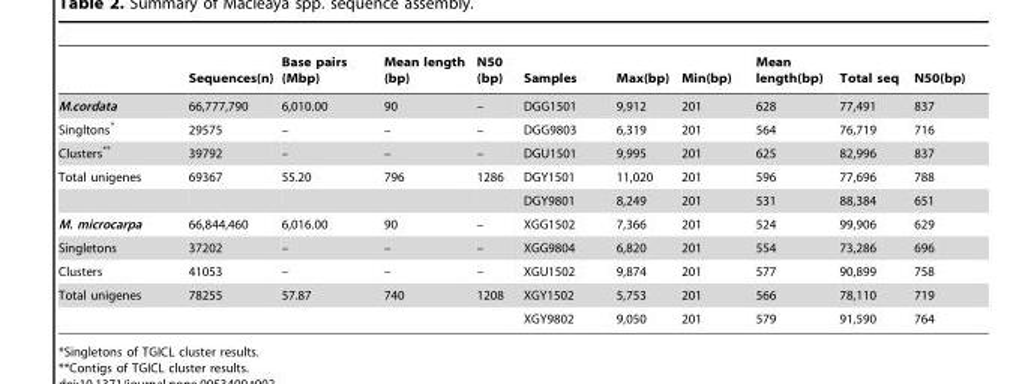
<table><thead><tr><td></td><td>Sequences(n)</td><td>Base pairs (Mbp)</td><td>Mean length (bp)</td><td>N50 (bp)</td><td>Samples</td><td>Max(bp)</td><td>Min(bp)</td><td>Mean length(bp)</td><td>Total seq</td><td>N50(bp)</td></tr></thead><tbody><tr><td>M.cordata</td><td>66,777,790</td><td>6,010.00</td><td>90</td><td>–</td><td>DGG1501</td><td>9,912</td><td>201</td><td>628</td><td>77,491</td><td>837</td></tr><tr><td>Singltons*</td><td>29575</td><td>–</td><td>–</td><td>–</td><td>DGG9803</td><td>6,319</td><td>201</td><td>564</td><td>76,719</td><td>716</td></tr><tr><td>Clusters**</td><td>39792</td><td>–</td><td>–</td><td>–</td><td>DGU1501</td><td>9,995</td><td>201</td><td>625</td><td>82,996</td><td>837</td></tr><tr><td rowspan="2">Total unigenes</td><td>69367</td><td>55.20</td><td>796</td><td>1286</td><td>DGY1501</td><td>11,020</td><td>201</td><td>596</td><td>77,696</td><td>788</td></tr><tr><td></td><td></td><td></td><td></td><td>DGY9801</td><td>8,249</td><td>201</td><td>531</td><td>88,384</td><td>651</td></tr><tr><td>M. microcarpa</td><td>66,844,460</td><td>6,016.00</td><td>90</td><td>–</td><td>XGG1502</td><td>7,366</td><td>201</td><td>524</td><td>99,906</td><td>629</td></tr><tr><td>Singletons</td><td>37202</td><td>–</td><td>–</td><td>–</td><td>XGG9804</td><td>6,820</td><td>201</td><td>554</td><td>73,286</td><td>696</td></tr><tr><td>Clusters</td><td>41053</td><td>–</td><td>–</td><td>–</td><td>XGU1502</td><td>9,874</td><td>201</td><td>577</td><td>90,899</td><td>758</td></tr><tr><td rowspan="2">Total unigenes</td><td>78255</td><td>57.87</td><td>740</td><td>1208</td><td>XGY1502</td><td>5,753</td><td>201</td><td>566</td><td>78,110</td><td>719</td></tr><tr><td></td><td></td><td></td><td></td><td>XGY9802</td><td>9,050</td><td>201</td><td>579</td><td>91,590</td><td>764</td></tr></tbody></table>